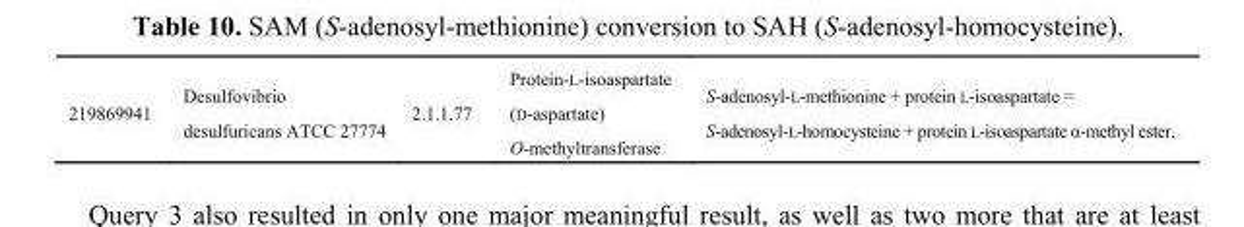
<table><tbody><tr><td>219869941</td><td>Desulfovibrio desulfuricans ATCC 27774</td><td>2.1.1.77</td><td>Protein-L-isoaspartate (D-aspartate) O-methyltransferase</td><td>S-adenosyl-L-methionine + protein L-isoaspartate = S-adenosyl-L-homocysteine + protein L-isoaspartate α-methyl ester.</td></tr></tbody></table>